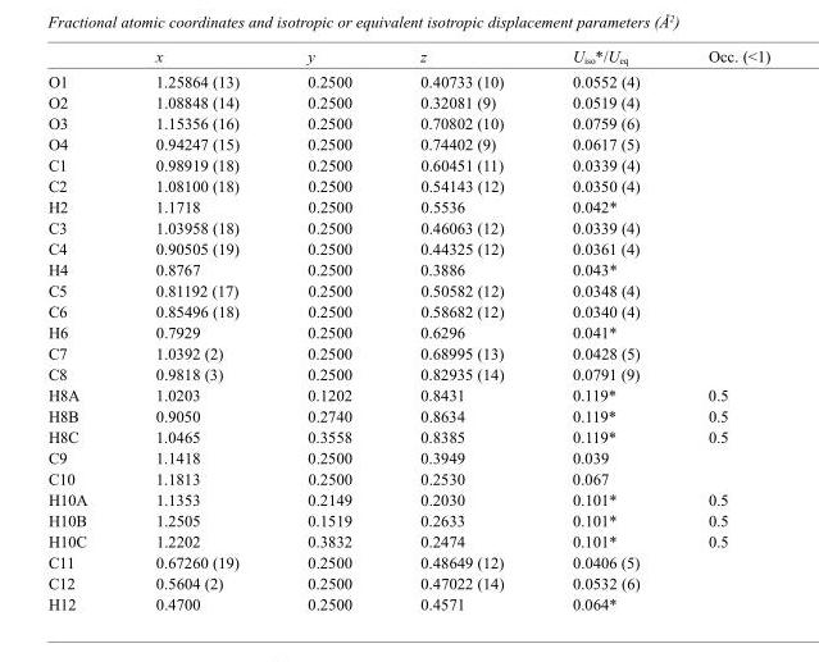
<table><thead><tr><td></td><td>x</td><td>y</td><td>z</td><td>U<sub>iso</sub>*/U<sub>eq</sub></td><td>Occ. (&lt;1)</td></tr></thead><tbody><tr><td>O1</td><td>1.25864 (13)</td><td>0.2500</td><td>0.40733 (10)</td><td>0.0552 (4)</td><td></td></tr><tr><td>O2</td><td>1.08848 (14)</td><td>0.2500</td><td>0.32081 (9)</td><td>0.0519 (4)</td><td></td></tr><tr><td>O3</td><td>1.15356 (16)</td><td>0.2500</td><td>0.70802 (10)</td><td>0.0759 (6)</td><td></td></tr><tr><td>O4</td><td>0.94247 (15)</td><td>0.2500</td><td>0.74402 (9)</td><td>0.0617 (5)</td><td></td></tr><tr><td>C1</td><td>0.98919 (18)</td><td>0.2500</td><td>0.60451 (11)</td><td>0.0339 (4)</td><td></td></tr><tr><td>C2</td><td>1.08100 (18)</td><td>0.2500</td><td>0.54143 (12)</td><td>0.0350 (4)</td><td></td></tr><tr><td>H2</td><td>1.1718</td><td>0.2500</td><td>0.5536</td><td>0.042*</td><td></td></tr><tr><td>C3</td><td>1.03958 (18)</td><td>0.2500</td><td>0.46063 (12)</td><td>0.0339 (4)</td><td></td></tr><tr><td>C4</td><td>0.90505 (19)</td><td>0.2500</td><td>0.44325 (12)</td><td>0.0361 (4)</td><td></td></tr><tr><td>H4</td><td>0.8767</td><td>0.2500</td><td>0.3886</td><td>0.043*</td><td></td></tr><tr><td>C5</td><td>0.81192 (17)</td><td>0.2500</td><td>0.50582 (12)</td><td>0.0348 (4)</td><td></td></tr><tr><td>C6</td><td>0.85496 (18)</td><td>0.2500</td><td>0.58682 (12)</td><td>0.0340 (4)</td><td></td></tr><tr><td>H6</td><td>0.7929</td><td>0.2500</td><td>0.6296</td><td>0.041*</td><td></td></tr><tr><td>C7</td><td>1.0392 (2)</td><td>0.2500</td><td>0.68995 (13)</td><td>0.0428 (5)</td><td></td></tr><tr><td>C8</td><td>0.9818 (3)</td><td>0.2500</td><td>0.82935 (14)</td><td>0.0791 (9)</td><td></td></tr><tr><td>H8A</td><td>1.0203</td><td>0.1202</td><td>0.8431</td><td>0.119*</td><td>0.5</td></tr><tr><td>H8B</td><td>0.9050</td><td>0.2740</td><td>0.8634</td><td>0.119*</td><td>0.5</td></tr><tr><td>H8C</td><td>1.0465</td><td>0.3558</td><td>0.8385</td><td>0.119*</td><td>0.5</td></tr><tr><td>C9</td><td>1.1418</td><td>0.2500</td><td>0.3949</td><td>0.039</td><td></td></tr><tr><td>C10</td><td>1.1813</td><td>0.2500</td><td>0.2530</td><td>0.067</td><td></td></tr><tr><td>H10A</td><td>1.1353</td><td>0.2149</td><td>0.2030</td><td>0.101*</td><td>0.5</td></tr><tr><td>H10B</td><td>1.2505</td><td>0.1519</td><td>0.2633</td><td>0.101*</td><td>0.5</td></tr><tr><td>H10C</td><td>1.2202</td><td>0.3832</td><td>0.2474</td><td>0.101*</td><td>0.5</td></tr><tr><td>C11</td><td>0.67260 (19)</td><td>0.2500</td><td>0.48649 (12)</td><td>0.0406 (5)</td><td></td></tr><tr><td>C12</td><td>0.5604 (2)</td><td>0.2500</td><td>0.47022 (14)</td><td>0.0532 (6)</td><td></td></tr><tr><td>H12</td><td>0.4700</td><td>0.2500</td><td>0.4571</td><td>0.064*</td><td></td></tr></tbody></table>